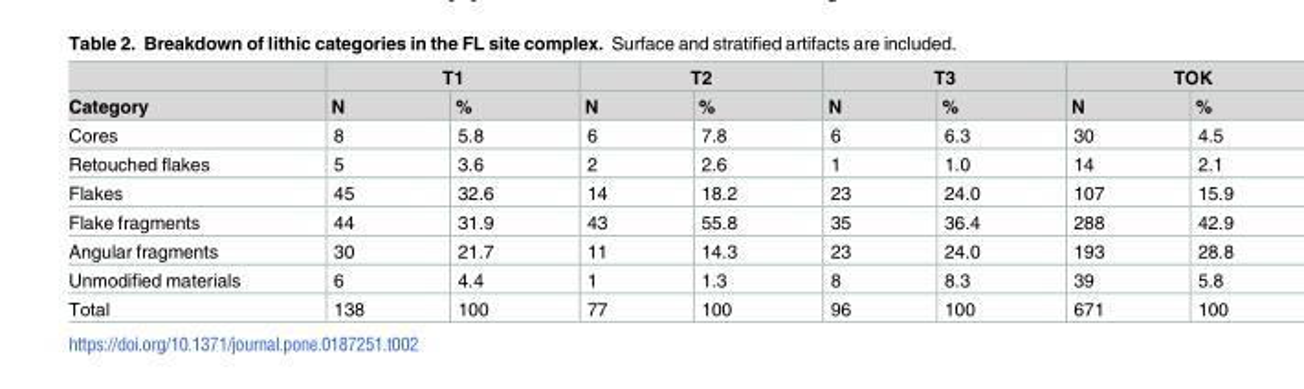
<table><thead><tr><td rowspan="2">Category</td><td colspan="2">T1</td><td colspan="2">T2</td><td colspan="2">T3</td><td colspan="2">TOK</td></tr><tr><td>N</td><td>%</td><td>N</td><td>%</td><td>N</td><td>%</td><td>N</td><td>%</td></tr></thead><tbody><tr><td>Cores</td><td>8</td><td>5.8</td><td>6</td><td>7.8</td><td>6</td><td>6.3</td><td>30</td><td>4.5</td></tr><tr><td>Retouched flakes</td><td>5</td><td>3.6</td><td>2</td><td>2.6</td><td>1</td><td>1.0</td><td>14</td><td>2.1</td></tr><tr><td>Flakes</td><td>45</td><td>32.6</td><td>14</td><td>18.2</td><td>23</td><td>24.0</td><td>107</td><td>15.9</td></tr><tr><td>Flake fragments</td><td>44</td><td>31.9</td><td>43</td><td>55.8</td><td>35</td><td>36.4</td><td>288</td><td>42.9</td></tr><tr><td>Angular fragments</td><td>30</td><td>21.7</td><td>11</td><td>14.3</td><td>23</td><td>24.0</td><td>193</td><td>28.8</td></tr><tr><td>Unmodified materials</td><td>6</td><td>4.4</td><td>1</td><td>1.3</td><td>8</td><td>8.3</td><td>39</td><td>5.8</td></tr><tr><td>Total</td><td>138</td><td>100</td><td>77</td><td>100</td><td>96</td><td>100</td><td>671</td><td>100</td></tr></tbody></table>